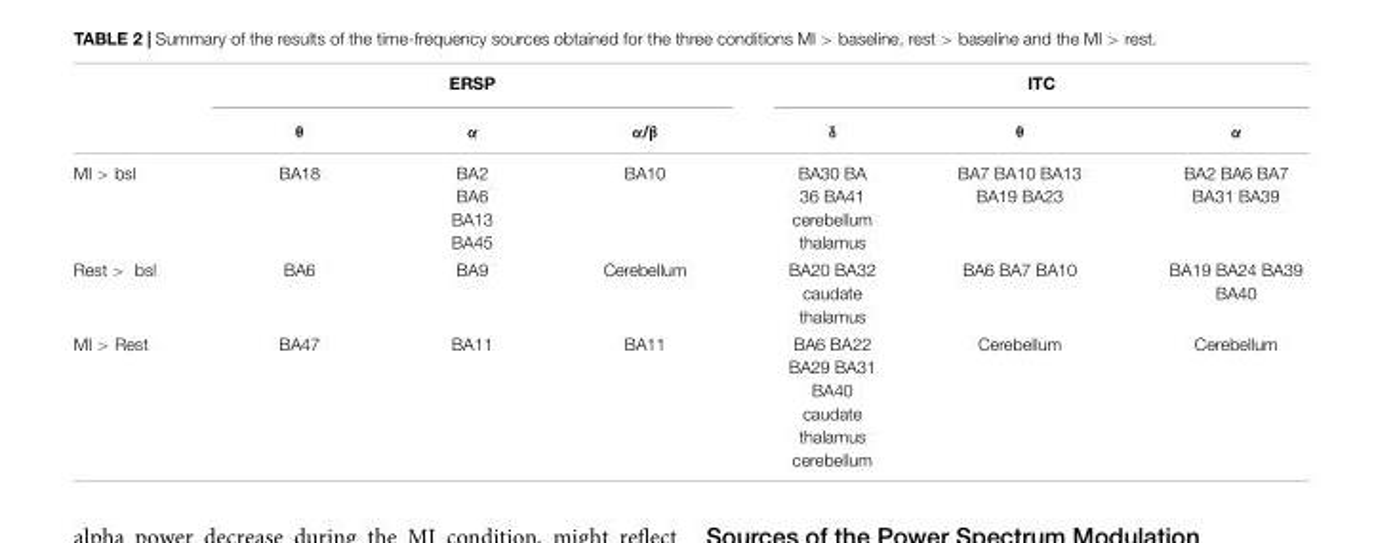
<table><thead><tr><td rowspan="2"></td><td colspan="3">ERSP</td><td colspan="3">ITC</td></tr><tr><td>θ</td><td>α</td><td>α/β</td><td>δ</td><td>θ</td><td>α</td></tr></thead><tbody><tr><td>MI &gt; bsl</td><td>BA18</td><td>BA2 BA6 BA13 BA45</td><td>BA10</td><td>BA30 BA 36 BA41 cerebellum thalamus</td><td>BA7 BA10 BA13 BA19 BA23</td><td>BA2 BA6 BA7 BA31 BA39</td></tr><tr><td>Rest &gt; bsl</td><td>BA6</td><td>BA9</td><td>Cerebellum</td><td>BA20 BA32 caudate thalamus</td><td>BA6 BA7 BA10</td><td>BA19 BA24 BA39 BA40</td></tr><tr><td>MI &gt; Rest</td><td>BA47</td><td>BA11</td><td>BA11</td><td>BA6 BA22 BA29 BA31 BA40 caudate thalamus cerebellum</td><td>Cerebellum</td><td>Cerebellum</td></tr></tbody></table>